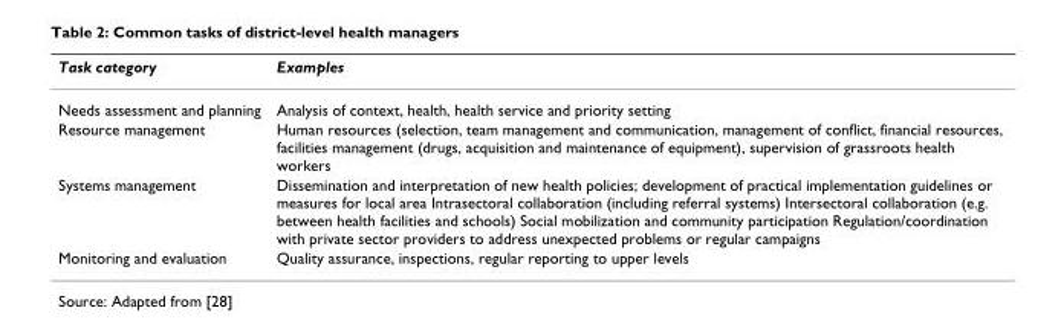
<table><thead><tr><td>Task category</td><td>Examples</td></tr></thead><tbody><tr><td>Needs assessment and planning</td><td>Analysis of context, health, health service and priority setting</td></tr><tr><td>Resource management</td><td>Human resources (selection, team management and communication, management of conflict, financial resources, facilities management (drugs, acquisition and maintenance of equipment), supervision of grassroots health workers</td></tr><tr><td>Systems management</td><td>Dissemination and interpretation of new health policies; development of practical implementation guidelines or measures for local area Intrasectoral collaboration (including referral systems) Intersectoral collaboration (e.g. between health facilities and schools) Social mobilization and community participation Regulation/coordination with private sector providers to address unexpected problems or regular campaigns</td></tr><tr><td>Monitoring and evaluation</td><td>Quality assurance, inspections, regular reporting to upper levels</td></tr></tbody></table>